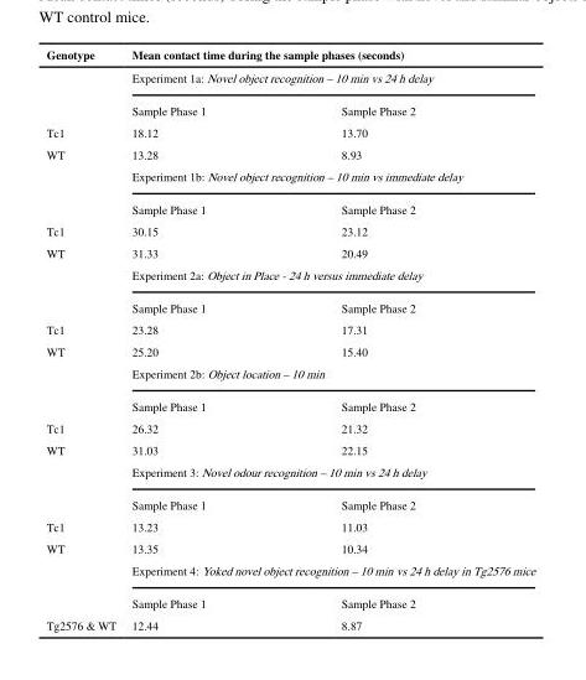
<table><thead><tr><td rowspan="3">Genotype</td><td rowspan="2" colspan="2">Mean contact time during the sample phases (seconds) Experiment 1a: Novel object recognition – 10 min vs 24 h delay</td></tr><tr></tr><tr><td>Sample Phase 1</td><td>Sample Phase 2</td></tr></thead><tbody><tr><td>Tc1</td><td>18.12</td><td>13.70</td></tr><tr><td rowspan="3">WT</td><td>13.28</td><td>8.93</td></tr><tr><td colspan="2">Experiment 1b: Novel object recognition – 10 min vs immediate delay</td></tr><tr><td>Sample Phase 1</td><td>Sample Phase 2</td></tr><tr><td>Tc1</td><td>30.15</td><td>23.12</td></tr><tr><td rowspan="3">WT</td><td>31.33</td><td>20.49</td></tr><tr><td colspan="2">Experiment 2a: Object in Place - 24 h versus immediate delay</td></tr><tr><td>Sample Phase 1</td><td>Sample Phase 2</td></tr><tr><td>Tc1</td><td>23.28</td><td>17.31</td></tr><tr><td rowspan="3">WT</td><td>25.20</td><td>15.40</td></tr><tr><td colspan="2">Experiment 2b: Object location – 10 min</td></tr><tr><td>Sample Phase 1</td><td>Sample Phase 2</td></tr><tr><td>Tc1</td><td>26.32</td><td>21.32</td></tr><tr><td rowspan="3">WT</td><td>31.03</td><td>22.15</td></tr><tr><td colspan="2">Experiment 3: Novel odour recognition – 10 min vs 24 h delay</td></tr><tr><td>Sample Phase 1</td><td>Sample Phase 2</td></tr><tr><td>Tc1</td><td>13.23</td><td>11.03</td></tr><tr><td rowspan="3">WT</td><td>13.35</td><td>10.34</td></tr><tr><td colspan="2">Experiment 4: Yoked novel object recognition – 10 min vs 24 h delay in Tg2576 mice</td></tr><tr><td>Sample Phase 1</td><td>Sample Phase 2</td></tr><tr><td>Tg2576 &amp; WT</td><td>12.44</td><td>8.87</td></tr></tbody></table>